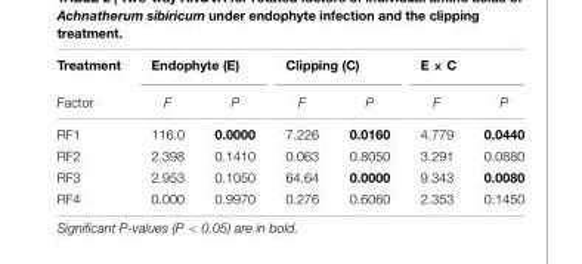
<table><thead><tr><td rowspan="2">Treatment Factor</td><td colspan="2">Endophyte (E)</td><td colspan="2">Clipping (C)</td><td colspan="2">E × C</td></tr><tr><td>F</td><td>P</td><td>F</td><td>P</td><td>F</td><td>P</td></tr></thead><tbody><tr><td>RF1</td><td>116.0</td><td>0.0000</td><td>7.226</td><td>0.0160</td><td>4.779</td><td>0.0440</td></tr><tr><td>RF2</td><td>2.398</td><td>0.1410</td><td>0.063</td><td>0.8050</td><td>3.291</td><td>0.0880</td></tr><tr><td>RF3</td><td>2.953</td><td>0.1050</td><td>64.64</td><td>0.0000</td><td>9.343</td><td>0.0080</td></tr><tr><td>RF4</td><td>0.000</td><td>0.9970</td><td>0.276</td><td>0.6060</td><td>2.353</td><td>0.1450</td></tr></tbody></table>